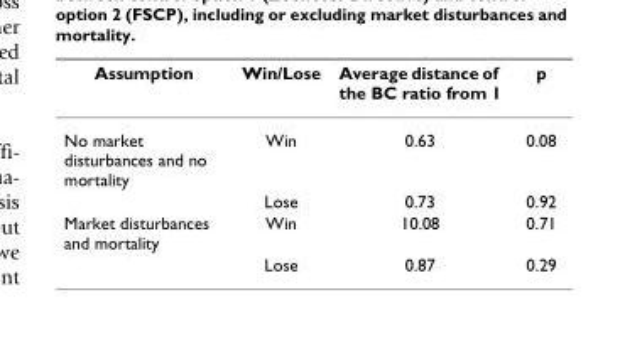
<table><thead><tr><td>Assumption</td><td>Win/Lose</td><td>Average distance of the BC ratio from 1</td><td>p</td></tr></thead><tbody><tr><td rowspan="2">No market disturbances and no mortality</td><td>Win</td><td>0.63</td><td>0.08</td></tr><tr><td>Lose</td><td>0.73</td><td>0.92</td></tr><tr><td rowspan="2">Market disturbances and mortality</td><td>Win</td><td>10.08</td><td>0.71</td></tr><tr><td>Lose</td><td>0.87</td><td>0.29</td></tr></tbody></table>